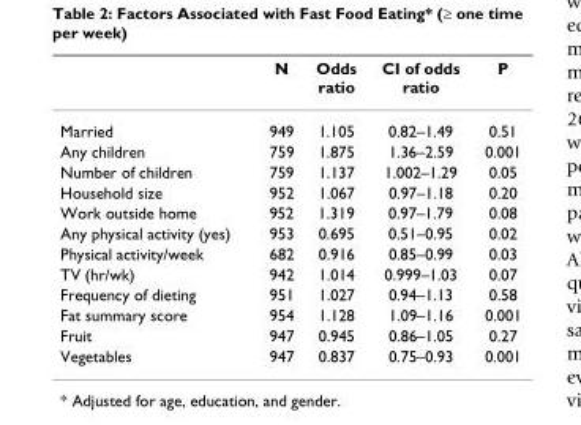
<table><thead><tr><td></td><td>N</td><td>Odds ratio</td><td>CI of odds ratio</td><td>P</td></tr></thead><tbody><tr><td>Married</td><td>949</td><td>1.105</td><td>0.82–1.49</td><td>0.51</td></tr><tr><td>Any children</td><td>759</td><td>1.875</td><td>1.36–2.59</td><td>0.001</td></tr><tr><td>Number of children</td><td>759</td><td>1.137</td><td>1.002–1.29</td><td>0.05</td></tr><tr><td>Household size</td><td>952</td><td>1.067</td><td>0.97–1.18</td><td>0.20</td></tr><tr><td>Work outside home</td><td>952</td><td>1.319</td><td>0.97–1.79</td><td>0.08</td></tr><tr><td>Any physical activity (yes)</td><td>953</td><td>0.695</td><td>0.51–0.95</td><td>0.02</td></tr><tr><td>Physical activity/week</td><td>682</td><td>0.916</td><td>0.85–0.99</td><td>0.03</td></tr><tr><td>TV (hr/wk)</td><td>942</td><td>1.014</td><td>0.999–1.03</td><td>0.07</td></tr><tr><td>Frequency of dieting</td><td>951</td><td>1.027</td><td>0.94–1.13</td><td>0.58</td></tr><tr><td>Fat summary score</td><td>954</td><td>1.128</td><td>1.09–1.16</td><td>0.001</td></tr><tr><td>Fruit</td><td>947</td><td>0.945</td><td>0.86–1.05</td><td>0.27</td></tr><tr><td>Vegetables</td><td>947</td><td>0.837</td><td>0.75–0.93</td><td>0.001</td></tr></tbody></table>